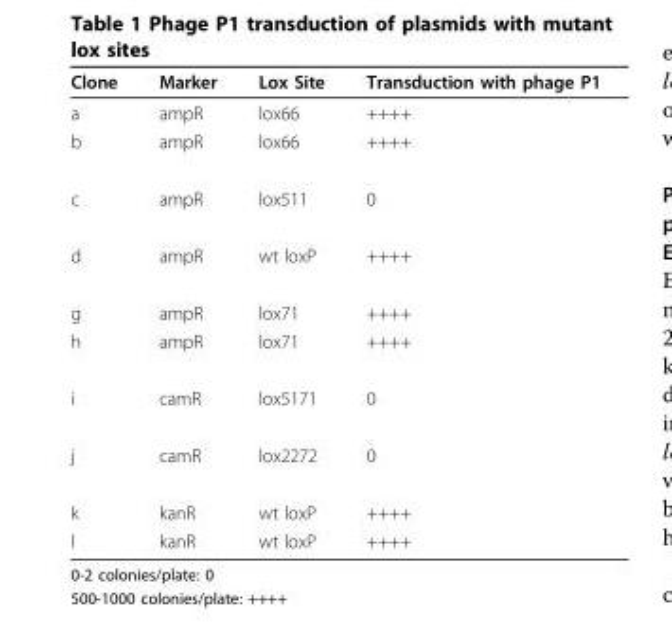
<table><thead><tr><td>Clone</td><td>Marker</td><td>Lox Site</td><td>Transduction with phage P1</td></tr></thead><tbody><tr><td>a</td><td>ampR</td><td>lox66</td><td>++++</td></tr><tr><td>b</td><td>ampR</td><td>lox66</td><td>++++</td></tr><tr><td>c</td><td>ampR</td><td>lox511</td><td>0</td></tr><tr><td>d</td><td>ampR</td><td>wt loxP</td><td>++++</td></tr><tr><td>g</td><td>ampR</td><td>lox71</td><td>++++</td></tr><tr><td>h</td><td>ampR</td><td>lox71</td><td>++++</td></tr><tr><td>i</td><td>camR</td><td>lox5171</td><td>0</td></tr><tr><td>j</td><td>camR</td><td>lox2272</td><td>0</td></tr><tr><td>k</td><td>kanR</td><td>wt loxP</td><td>++++</td></tr><tr><td>l</td><td>kanR</td><td>wt loxP</td><td>++++</td></tr></tbody></table>